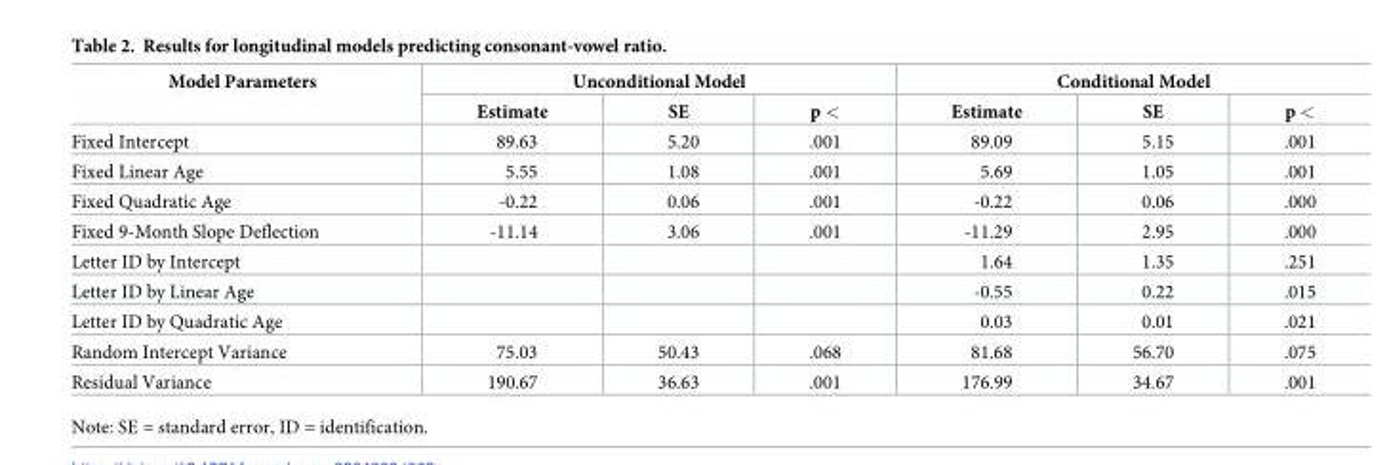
<table><thead><tr><td rowspan="2">Model Parameters</td><td colspan="3">Unconditional Model</td><td colspan="3">Conditional Model</td></tr><tr><td>Estimate</td><td>SE</td><td>p &lt;</td><td>Estimate</td><td>SE</td><td>p &lt;</td></tr></thead><tbody><tr><td>Fixed Intercept</td><td>89.63</td><td>5.20</td><td>.001</td><td>89.09</td><td>5.15</td><td>.001</td></tr><tr><td>Fixed Linear Age</td><td>5.55</td><td>1.08</td><td>.001</td><td>5.69</td><td>1.05</td><td>.001</td></tr><tr><td>Fixed Quadratic Age</td><td>-0.22</td><td>0.06</td><td>.001</td><td>-0.22</td><td>0.06</td><td>.000</td></tr><tr><td>Fixed 9-Month Slope Deflection</td><td>-11.14</td><td>3.06</td><td>.001</td><td>-11.29</td><td>2.95</td><td>.000</td></tr><tr><td>Letter ID by Intercept</td><td></td><td></td><td></td><td>1.64</td><td>1.35</td><td>.251</td></tr><tr><td>Letter ID by Linear Age</td><td></td><td></td><td></td><td>-0.55</td><td>0.22</td><td>.015</td></tr><tr><td>Letter ID by Quadratic Age</td><td></td><td></td><td></td><td>0.03</td><td>0.01</td><td>.021</td></tr><tr><td>Random Intercept Variance</td><td>75.03</td><td>50.43</td><td>.068</td><td>81.68</td><td>56.70</td><td>.075</td></tr><tr><td>Residual Variance</td><td>190.67</td><td>36.63</td><td>.001</td><td>176.99</td><td>34.67</td><td>.001</td></tr></tbody></table>